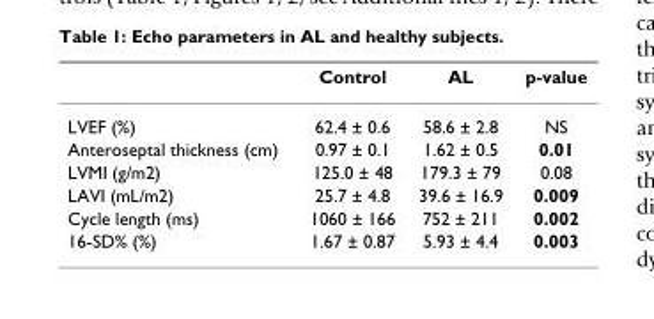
<table><thead><tr><td></td><td>Control</td><td>AL</td><td>p-value</td></tr></thead><tbody><tr><td>LVEF (%)</td><td>62.4 ± 0.6</td><td>58.6 ± 2.8</td><td>NS</td></tr><tr><td>Anteroseptal thickness (cm)</td><td>0.97 ± 0.1</td><td>1.62 ± 0.5</td><td>0.01</td></tr><tr><td>LVMI (g/m2)</td><td>125.0 ± 48</td><td>179.3 ± 79</td><td>0.08</td></tr><tr><td>LAVI (mL/m2)</td><td>25.7 ± 4.8</td><td>39.6 ± 16.9</td><td>0.009</td></tr><tr><td>Cycle length (ms)</td><td>1060 ± 166</td><td>752 ± 211</td><td>0.002</td></tr><tr><td>16-SD% (%)</td><td>1.67 ± 0.87</td><td>5.93 ± 4.4</td><td>0.003</td></tr></tbody></table>